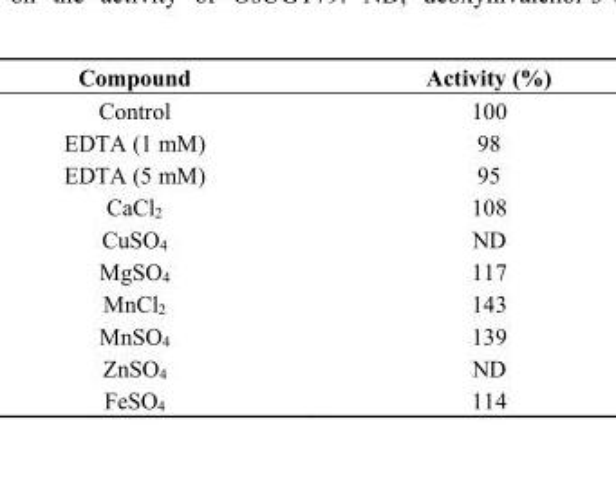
<table><thead><tr><td>Compound</td><td>Activity (%)</td></tr></thead><tbody><tr><td>Control</td><td>100</td></tr><tr><td>EDTA (1 mM)</td><td>98</td></tr><tr><td>EDTA (5 mM)</td><td>95</td></tr><tr><td>CaCl<sub>2</sub></td><td>108</td></tr><tr><td>CuSO<sub>4</sub></td><td>ND</td></tr><tr><td>MgSO<sub>4</sub></td><td>117</td></tr><tr><td>MnCl<sub>2</sub></td><td>143</td></tr><tr><td>MnSO<sub>4</sub></td><td>139</td></tr><tr><td>ZnSO<sub>4</sub></td><td>ND</td></tr><tr><td>FeSO<sub>4</sub></td><td>114</td></tr></tbody></table>